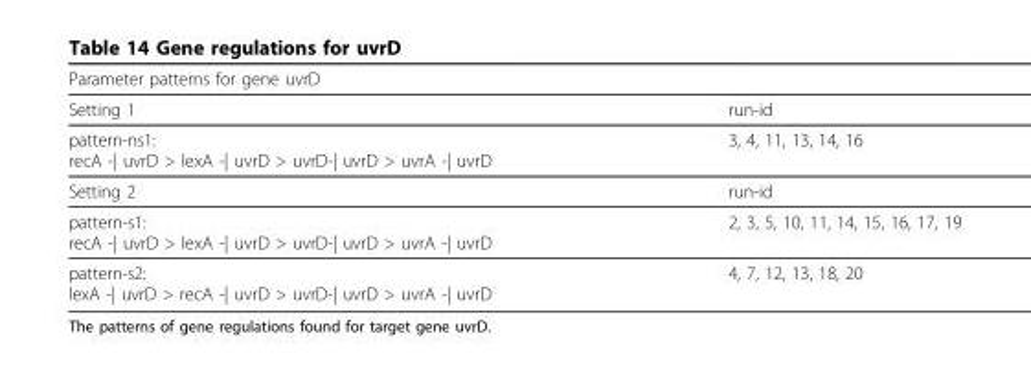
<table><thead><tr><td>Parameter patterns for gene uvrD</td><td></td></tr></thead><tbody><tr><td>Setting 1</td><td>run-id</td></tr><tr><td>pattern-ns1: recA -| uvrD &gt; lexA -| uvrD &gt; uvrD-| uvrD &gt; uvrA -| uvrD</td><td>3, 4, 11, 13, 14, 16</td></tr><tr><td>Setting 2</td><td>run-id</td></tr><tr><td>pattern-s1: recA -| uvrD &gt; lexA -| uvrD &gt; uvrD-| uvrD &gt; uvrA -| uvrD</td><td>2, 3, 5, 10, 11, 14, 15, 16, 17, 19</td></tr><tr><td>pattern-s2: lexA -| uvrD &gt; recA -| uvrD &gt; uvrD-| uvrD &gt; uvrA -| uvrD</td><td>4, 7, 12, 13, 18, 20</td></tr></tbody></table>